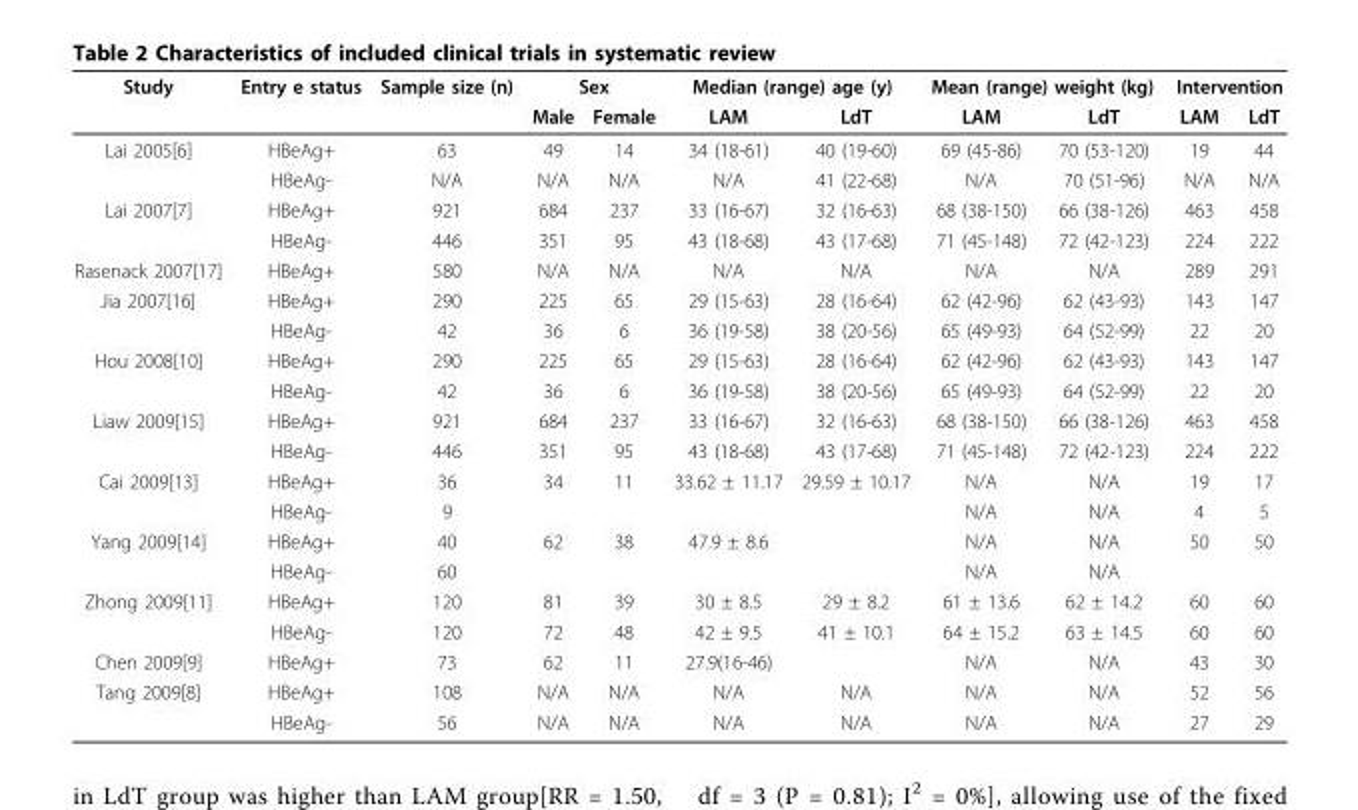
<table><thead><tr><td rowspan="2">Study</td><td rowspan="2">Entry e status</td><td rowspan="2">Sample size (n)</td><td colspan="2">Sex</td><td colspan="2">Median (range) age (y)</td><td colspan="2">Mean (range) weight (kg)</td><td colspan="2">Intervention</td></tr><tr><td>Male</td><td>Female</td><td>LAM</td><td>LdT</td><td>LAM</td><td>LdT</td><td>LAM</td><td>LdT</td></tr></thead><tbody><tr><td rowspan="2">Lai 2005[6]</td><td>HBeAg+</td><td>63</td><td>49</td><td>14</td><td>34 (18-61)</td><td>40 (19-60)</td><td>69 (45-86)</td><td>70 (53-120)</td><td>19</td><td>44</td></tr><tr><td>HBeAg-</td><td>N/A</td><td>N/A</td><td>N/A</td><td>N/A</td><td>41 (22-68)</td><td>N/A</td><td>70 (51-96)</td><td>N/A</td><td>N/A</td></tr><tr><td rowspan="2">Lai 2007[7]</td><td>HBeAg+</td><td>921</td><td>684</td><td>237</td><td>33 (16-67)</td><td>32 (16-63)</td><td>68 (38-150)</td><td>66 (38-126)</td><td>463</td><td>458</td></tr><tr><td>HBeAg-</td><td>446</td><td>351</td><td>95</td><td>43 (18-68)</td><td>43 (17-68)</td><td>71 (45-148)</td><td>72 (42-123)</td><td>224</td><td>222</td></tr><tr><td>Rasenack 2007[17]</td><td>HBeAg+</td><td>580</td><td>N/A</td><td>N/A</td><td>N/A</td><td>N/A</td><td>N/A</td><td>N/A</td><td>289</td><td>291</td></tr><tr><td rowspan="2">Jia 2007[16]</td><td>HBeAg+</td><td>290</td><td>225</td><td>65</td><td>29 (15-63)</td><td>28 (16-64)</td><td>62 (42-96)</td><td>62 (43-93)</td><td>143</td><td>147</td></tr><tr><td>HBeAg-</td><td>42</td><td>36</td><td>6</td><td>36 (19-58)</td><td>38 (20-56)</td><td>65 (49-93)</td><td>64 (52-99)</td><td>22</td><td>20</td></tr><tr><td rowspan="2">Hou 2008[10]</td><td>HBeAg+</td><td>290</td><td>225</td><td>65</td><td>29 (15-63)</td><td>28 (16-64)</td><td>62 (42-96)</td><td>62 (43-93)</td><td>143</td><td>147</td></tr><tr><td>HBeAg-</td><td>42</td><td>36</td><td>6</td><td>36 (19-58)</td><td>38 (20-56)</td><td>65 (49-93)</td><td>64 (52-99)</td><td>22</td><td>20</td></tr><tr><td rowspan="2">Liaw 2009[15]</td><td>HBeAg+</td><td>921</td><td>684</td><td>237</td><td>33 (16-67)</td><td>32 (16-63)</td><td>68 (38-150)</td><td>66 (38-126)</td><td>463</td><td>458</td></tr><tr><td>HBeAg-</td><td>446</td><td>351</td><td>95</td><td>43 (18-68)</td><td>43 (17-68)</td><td>71 (45-148)</td><td>72 (42-123)</td><td>224</td><td>222</td></tr><tr><td rowspan="2">Cai 2009[13]</td><td>HBeAg+</td><td>36</td><td>34</td><td>11</td><td>33.62 ± 11.17</td><td>29.59 ± 10.17</td><td>N/A</td><td>N/A</td><td>19</td><td>17</td></tr><tr><td>HBeAg-</td><td>9</td><td></td><td></td><td></td><td></td><td>N/A</td><td>N/A</td><td>4</td><td>5</td></tr><tr><td rowspan="2">Yang 2009[14]</td><td>HBeAg+</td><td>40</td><td>62</td><td>38</td><td>47.9 ± 8.6</td><td></td><td>N/A</td><td>N/A</td><td>50</td><td>50</td></tr><tr><td>HBeAg-</td><td>60</td><td></td><td></td><td></td><td></td><td>N/A</td><td>N/A</td><td></td><td></td></tr><tr><td rowspan="2">Zhong 2009[11]</td><td>HBeAg+</td><td>120</td><td>81</td><td>39</td><td>30 ± 8.5</td><td>29 ± 8.2</td><td>61 ± 13.6</td><td>62 ± 14.2</td><td>60</td><td>60</td></tr><tr><td>HBeAg-</td><td>120</td><td>72</td><td>48</td><td>42 ± 9.5</td><td>41 ± 10.1</td><td>64 ± 15.2</td><td>63 ± 14.5</td><td>60</td><td>60</td></tr><tr><td>Chen 2009[9]</td><td>HBeAg+</td><td>73</td><td>62</td><td>11</td><td>27.9(16-46)</td><td></td><td>N/A</td><td>N/A</td><td>43</td><td>30</td></tr><tr><td rowspan="2">Tang 2009[8]</td><td>HBeAg+</td><td>108</td><td>N/A</td><td>N/A</td><td>N/A</td><td>N/A</td><td>N/A</td><td>N/A</td><td>52</td><td>56</td></tr><tr><td>HBeAg-</td><td>56</td><td>N/A</td><td>N/A</td><td>N/A</td><td>N/A</td><td>N/A</td><td>N/A</td><td>27</td><td>29</td></tr></tbody></table>